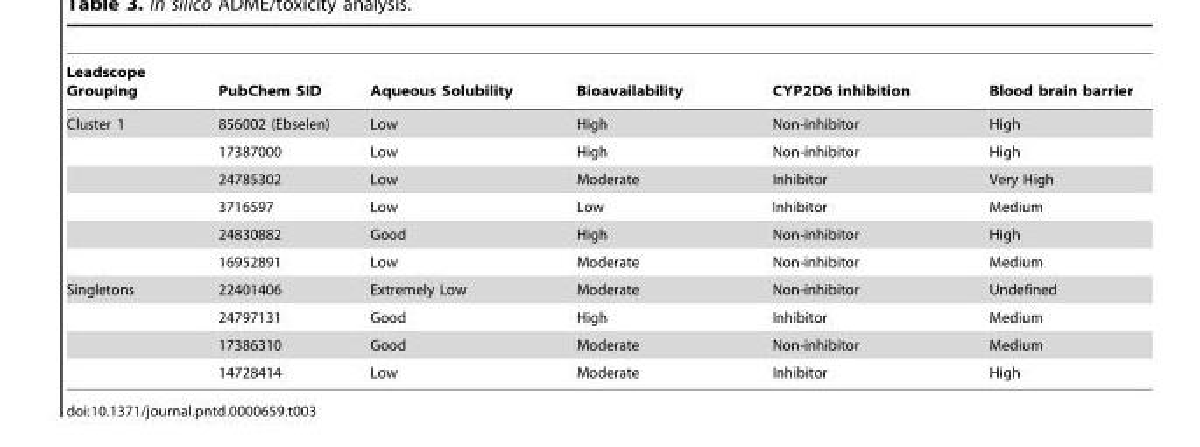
<table><thead><tr><td>Leadscope Grouping</td><td>PubChem SID</td><td>Aqueous Solubility</td><td>Bioavailability</td><td>CYP2D6 inhibition</td><td>Blood brain barrier</td></tr></thead><tbody><tr><td rowspan="6">Cluster 1</td><td>856002 (Ebselen)</td><td>Low</td><td>High</td><td>Non-inhibitor</td><td>High</td></tr><tr><td>17387000</td><td>Low</td><td>High</td><td>Non-inhibitor</td><td>High</td></tr><tr><td>24785302</td><td>Low</td><td>Moderate</td><td>Inhibitor</td><td>Very High</td></tr><tr><td>3716597</td><td>Low</td><td>Low</td><td>Inhibitor</td><td>Medium</td></tr><tr><td>24830882</td><td>Good</td><td>High</td><td>Non-inhibitor</td><td>High</td></tr><tr><td>16952891</td><td>Low</td><td>Moderate</td><td>Non-inhibitor</td><td>Medium</td></tr><tr><td rowspan="4">Singletons</td><td>22401406</td><td>Extremely Low</td><td>Moderate</td><td>Non-inhibitor</td><td>Undefined</td></tr><tr><td>24797131</td><td>Good</td><td>High</td><td>Inhibitor</td><td>Medium</td></tr><tr><td>17386310</td><td>Good</td><td>Moderate</td><td>Non-inhibitor</td><td>Medium</td></tr><tr><td>14728414</td><td>Low</td><td>Moderate</td><td>Inhibitor</td><td>High</td></tr></tbody></table>